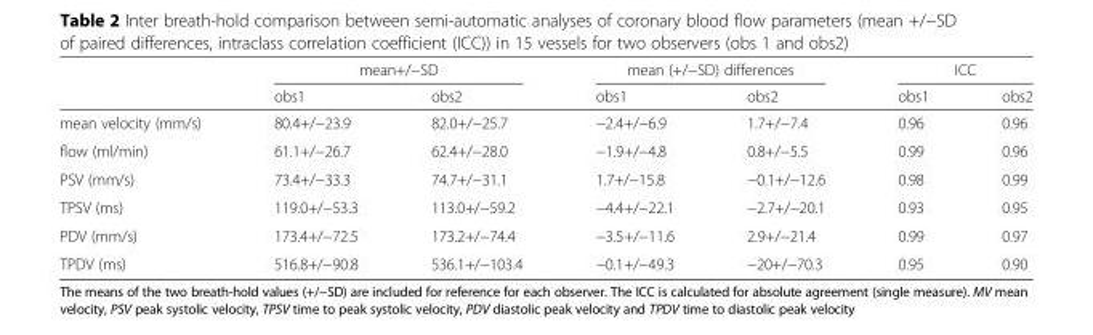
<table><thead><tr><td rowspan="2"></td><td colspan="2">mean+/−SD</td><td colspan="2">mean (+/−SD) differences</td><td colspan="2">ICC</td></tr><tr><td>obs1</td><td>obs2</td><td>obs1</td><td>obs2</td><td>obs1</td><td>obs2</td></tr></thead><tbody><tr><td>mean velocity (mm/s)</td><td>80.4+/−23.9</td><td>82.0+/−25.7</td><td>−2.4+/−6.9</td><td>1.7+/−7.4</td><td>0.96</td><td>0.96</td></tr><tr><td>flow (ml/min)</td><td>61.1+/−26.7</td><td>62.4+/−28.0</td><td>−1.9+/−4.8</td><td>0.8+/−5.5</td><td>0.99</td><td>0.96</td></tr><tr><td>PSV (mm/s)</td><td>73.4+/−33.3</td><td>74.7+/−31.1</td><td>1.7+/−15.8</td><td>−0.1+/−12.6</td><td>0.98</td><td>0.99</td></tr><tr><td>TPSV (ms)</td><td>119.0+/−53.3</td><td>113.0+/−59.2</td><td>−4.4+/−22.1</td><td>−2.7+/−20.1</td><td>0.93</td><td>0.95</td></tr><tr><td>PDV (mm/s)</td><td>173.4+/−72.5</td><td>173.2+/−74.4</td><td>−3.5+/−11.6</td><td>2.9+/−21.4</td><td>0.99</td><td>0.97</td></tr><tr><td>TPDV (ms)</td><td>516.8+/−90.8</td><td>536.1+/−103.4</td><td>−0.1+/−49.3</td><td>−20+/−70.3</td><td>0.95</td><td>0.90</td></tr></tbody></table>